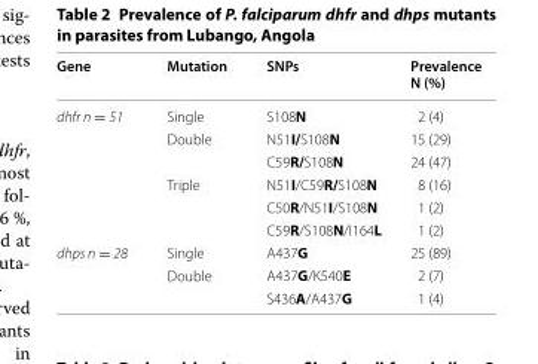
<table><thead><tr><td>Gene</td><td>Mutation</td><td>SNPs</td><td>Prevalence N (%)</td></tr></thead><tbody><tr><td rowspan="6">dhfr n = 51</td><td>Single</td><td>S108N</td><td>2 (4)</td></tr><tr><td rowspan="2">Double</td><td>N51I/S108N</td><td>15 (29)</td></tr><tr><td>C59R/S108N</td><td>24 (47)</td></tr><tr><td rowspan="3">Triple</td><td>N51I/C59R/S108N</td><td>8 (16)</td></tr><tr><td>C50R/N51I/S108N</td><td>1 (2)</td></tr><tr><td>C59R/S108N/I164L</td><td>1 (2)</td></tr><tr><td rowspan="3">dhps n = 28</td><td>Single</td><td>A437G</td><td>25 (89)</td></tr><tr><td rowspan="2">Double</td><td>A437G/K540E</td><td>2 (7)</td></tr><tr><td>S436A/A437G</td><td>1 (4)</td></tr></tbody></table>